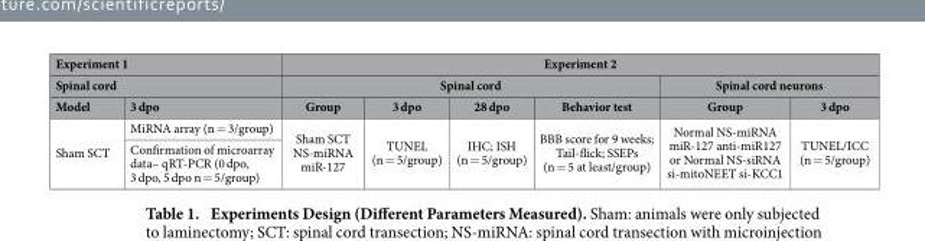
<table><thead><tr><td rowspan="2" colspan="2">Experiment 1 Spinal cord</td><td colspan="6">Experiment 2</td></tr><tr><td colspan="4">Spinal cord</td><td colspan="2">Spinal cord neurons</td></tr><tr><td>Model</td><td>3 dpo</td><td>Group</td><td>3 dpo</td><td>28 dpo</td><td>Behavior test</td><td>Group</td><td>3 dpo</td></tr></thead><tbody><tr><td rowspan="2">Sham SCT</td><td>MiRNA array (n = 3/group)</td><td rowspan="2">Sham SCT NS-miRNA miR-127</td><td rowspan="2">TUNEL (n = 5/group)</td><td rowspan="2">IHC; ISH (n = 5/group)</td><td rowspan="2">BBB score for 9 weeks; Tail-flick; SSEPs (n = 5 at least/group)</td><td rowspan="2">Normal NS-miRNA miR-127 anti-miR127 or Normal NS-siRNA si-mitoNEET si-KCC1</td><td rowspan="2">TUNEL/ICC (n = 5/group)</td></tr><tr><td>Confirmation of microarray data– qRT-PCR (0 dpo, 3 dpo, 5 dpo n = 5/group)</td></tr></tbody></table>